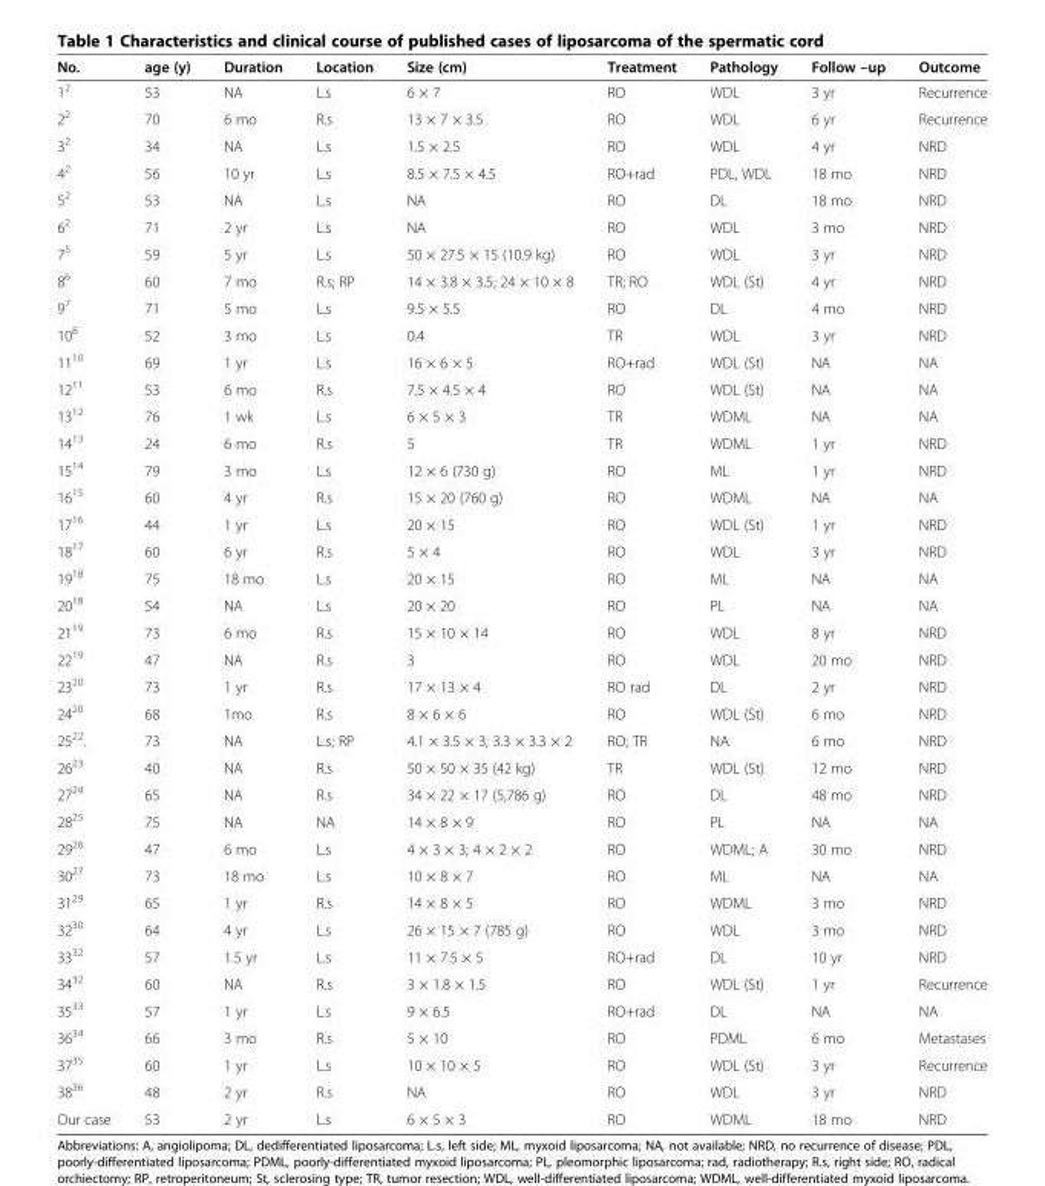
<table><thead><tr><td>No.</td><td>age (y)</td><td>Duration</td><td>Location</td><td>Size (cm)</td><td>Treatment</td><td>Pathology</td><td>Follow –up</td><td>Outcome</td></tr></thead><tbody><tr><td>1<sup>2</sup></td><td>53</td><td>NA</td><td>L.s</td><td>6 × 7</td><td>RO</td><td>WDL</td><td>3 yr</td><td>Recurrence</td></tr><tr><td>2<sup>2</sup></td><td>70</td><td>6 mo</td><td>R.s</td><td>13 × 7 × 3.5</td><td>RO</td><td>WDL</td><td>6 yr</td><td>Recurrence</td></tr><tr><td>3<sup>2</sup></td><td>34</td><td>NA</td><td>L.s</td><td>1.5 × 2.5</td><td>RO</td><td>WDL</td><td>4 yr</td><td>NRD</td></tr><tr><td>4<sup>2</sup></td><td>56</td><td>10 yr</td><td>L.s</td><td>8.5 × 7.5 × 4.5</td><td>RO+rad</td><td>PDL, WDL</td><td>18 mo</td><td>NRD</td></tr><tr><td>5<sup>2</sup></td><td>53</td><td>NA</td><td>L.s</td><td>NA</td><td>RO</td><td>DL</td><td>18 mo</td><td>NRD</td></tr><tr><td>6<sup>2</sup></td><td>71</td><td>2 yr</td><td>L.s</td><td>NA</td><td>RO</td><td>WDL</td><td>3 mo</td><td>NRD</td></tr><tr><td>7<sup>5</sup></td><td>59</td><td>5 yr</td><td>L.s</td><td>50 × 27.5 × 15 (10.9 kg)</td><td>RO</td><td>WDL</td><td>3 yr</td><td>NRD</td></tr><tr><td>8<sup>6</sup></td><td>60</td><td>7 mo</td><td>R.s; RP</td><td>14 × 3.8 × 3.5; 24 × 10 × 8</td><td>TR; RO</td><td>WDL (St)</td><td>4 yr</td><td>NRD</td></tr><tr><td>9<sup>7</sup></td><td>71</td><td>5 mo</td><td>L.s</td><td>9.5 × 5.5</td><td>RO</td><td>DL</td><td>4 mo</td><td>NRD</td></tr><tr><td>10<sup>8</sup></td><td>52</td><td>3 mo</td><td>L.s</td><td>0.4</td><td>TR</td><td>WDL</td><td>3 yr</td><td>NRD</td></tr><tr><td>11<sup>10</sup></td><td>69</td><td>1 yr</td><td>L.s</td><td>16 × 6 × 5</td><td>RO+rad</td><td>WDL (St)</td><td>NA</td><td>NA</td></tr><tr><td>12<sup>11</sup></td><td>53</td><td>6 mo</td><td>R.s</td><td>7.5 × 4.5 × 4</td><td>RO</td><td>WDL (St)</td><td>NA</td><td>NA</td></tr><tr><td>13<sup>12</sup></td><td>76</td><td>1 wk</td><td>L.s</td><td>6 × 5 × 3</td><td>TR</td><td>WDML</td><td>NA</td><td>NA</td></tr><tr><td>14<sup>13</sup></td><td>24</td><td>6 mo</td><td>R.s</td><td>5</td><td>TR</td><td>WDML</td><td>1 yr</td><td>NRD</td></tr><tr><td>15<sup>14</sup></td><td>79</td><td>3 mo</td><td>L.s</td><td>12 × 6 (730 g)</td><td>RO</td><td>ML</td><td>1 yr</td><td>NRD</td></tr><tr><td>16<sup>15</sup></td><td>60</td><td>4 yr</td><td>R.s</td><td>15 × 20 (760 g)</td><td>RO</td><td>WDML</td><td>NA</td><td>NA</td></tr><tr><td>17<sup>16</sup></td><td>44</td><td>1 yr</td><td>L.s</td><td>20 × 15</td><td>RO</td><td>WDL (St)</td><td>1 yr</td><td>NRD</td></tr><tr><td>18<sup>17</sup></td><td>60</td><td>6 yr</td><td>R.s</td><td>5 × 4</td><td>RO</td><td>WDL</td><td>3 yr</td><td>NRD</td></tr><tr><td>19<sup>18</sup></td><td>75</td><td>18 mo</td><td>L.s</td><td>20 × 15</td><td>RO</td><td>ML</td><td>NA</td><td>NA</td></tr><tr><td>20<sup>18</sup></td><td>54</td><td>NA</td><td>L.s</td><td>20 × 20</td><td>RO</td><td>PL</td><td>NA</td><td>NA</td></tr><tr><td>21<sup>19</sup></td><td>73</td><td>6 mo</td><td>R.s</td><td>15 × 10 × 14</td><td>RO</td><td>WDL</td><td>8 yr</td><td>NRD</td></tr><tr><td>22<sup>19</sup></td><td>47</td><td>NA</td><td>R.s</td><td>3</td><td>RO</td><td>WDL</td><td>20 mo</td><td>NRD</td></tr><tr><td>23<sup>20</sup></td><td>73</td><td>1 yr</td><td>R.s</td><td>17 × 13 × 4</td><td>RO rad</td><td>DL</td><td>2 yr</td><td>NRD</td></tr><tr><td>24<sup>20</sup></td><td>68</td><td>1mo</td><td>R.s</td><td>8 × 6 × 6</td><td>RO</td><td>WDL (St)</td><td>6 mo</td><td>NRD</td></tr><tr><td>25<sup>22</sup>.</td><td>73</td><td>NA</td><td>L.s; RP</td><td>4.1 × 3.5 × 3; 3.3 × 3.3 × 2</td><td>RO; TR</td><td>NA</td><td>6 mo</td><td>NRD</td></tr><tr><td>26<sup>23</sup></td><td>40</td><td>NA</td><td>R.s</td><td>50 × 50 × 35 (42 kg)</td><td>TR</td><td>WDL (St)</td><td>12 mo</td><td>NRD</td></tr><tr><td>27<sup>24</sup></td><td>65</td><td>NA</td><td>R.s</td><td>34 × 22 × 17 (5,786 g)</td><td>RO</td><td>DL</td><td>48 mo</td><td>NRD</td></tr><tr><td>28<sup>25</sup></td><td>75</td><td>NA</td><td>NA</td><td>14 × 8 × 9</td><td>RO</td><td>PL</td><td>NA</td><td>NA</td></tr><tr><td>29<sup>26</sup></td><td>47</td><td>6 mo</td><td>L.s</td><td>4 × 3 × 3; 4 × 2 × 2</td><td>RO</td><td>WDML; A</td><td>30 mo</td><td>NRD</td></tr><tr><td>30<sup>27</sup></td><td>73</td><td>18 mo</td><td>L.s</td><td>10 × 8 × 7</td><td>RO</td><td>ML</td><td>NA</td><td>NA</td></tr><tr><td>31<sup>29</sup></td><td>65</td><td>1 yr</td><td>R.s</td><td>14 × 8 × 5</td><td>RO</td><td>WDML</td><td>3 mo</td><td>NRD</td></tr><tr><td>32<sup>30</sup></td><td>64</td><td>4 yr</td><td>L.s</td><td>26 × 15 × 7 (785 g)</td><td>RO</td><td>WDL</td><td>3 mo</td><td>NRD</td></tr><tr><td>33<sup>32</sup></td><td>57</td><td>1.5 yr</td><td>L.s</td><td>11 × 7.5 × 5</td><td>RO+rad</td><td>DL</td><td>10 yr</td><td>NRD</td></tr><tr><td>34<sup>32</sup></td><td>60</td><td>NA</td><td>R.s</td><td>3 × 1.8 × 1.5</td><td>RO</td><td>WDL (St)</td><td>1 yr</td><td>Recurrence</td></tr><tr><td>35<sup>33</sup></td><td>57</td><td>1 yr</td><td>L.s</td><td>9 × 6.5</td><td>RO+rad</td><td>DL</td><td>NA</td><td>NA</td></tr><tr><td>36<sup>34</sup></td><td>66</td><td>3 mo</td><td>R.s</td><td>5 × 10</td><td>RO</td><td>PDML</td><td>6 mo</td><td>Metastases</td></tr><tr><td>37<sup>35</sup></td><td>60</td><td>1 yr</td><td>L.s</td><td>10 × 10 × 5</td><td>RO</td><td>WDL (St)</td><td>3 yr</td><td>Recurrence</td></tr><tr><td>38<sup>36</sup></td><td>48</td><td>2 yr</td><td>R.s</td><td>NA</td><td>RO</td><td>WDL</td><td>3 yr</td><td>NRD</td></tr><tr><td>Our case</td><td>53</td><td>2 yr</td><td>L.s</td><td>6 × 5 × 3</td><td>RO</td><td>WDML</td><td>18 mo</td><td>NRD</td></tr></tbody></table>